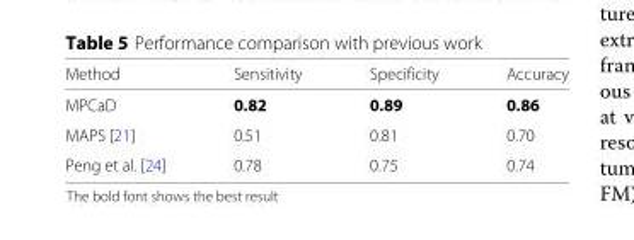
<table><thead><tr><td>Method</td><td>Sensitivity</td><td>Specificity</td><td>Accuracy</td></tr></thead><tbody><tr><td>MPCaD</td><td>0.82</td><td>0.89</td><td>0.86</td></tr><tr><td>MAPS [21]</td><td>0.51</td><td>0.81</td><td>0.70</td></tr><tr><td>Peng et al. [24]</td><td>0.78</td><td>0.75</td><td>0.74</td></tr></tbody></table>